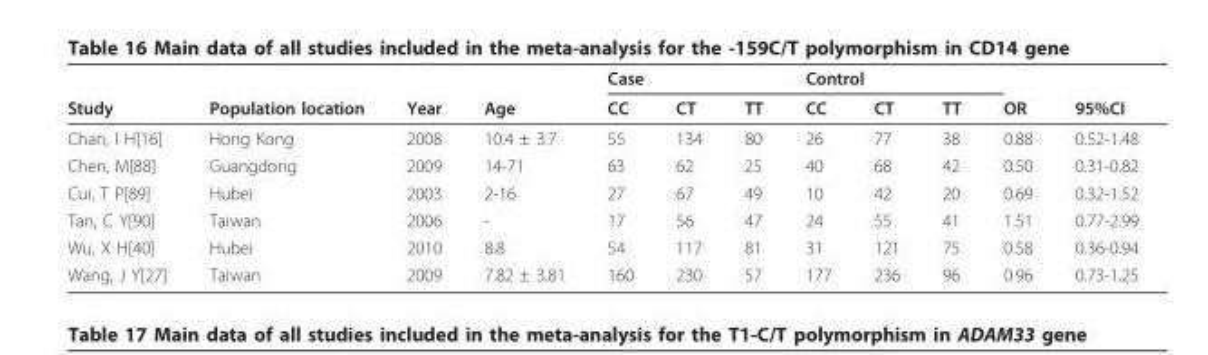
<table><thead><tr><td rowspan="2">Study</td><td rowspan="2">Population location</td><td rowspan="2">Year</td><td rowspan="2">Age</td><td colspan="3">Case</td><td colspan="3">Control</td><td rowspan="2">OR</td><td rowspan="2">95%CI</td></tr><tr><td>CC</td><td>CT</td><td>TT</td><td>CC</td><td>CT</td><td>TT</td></tr></thead><tbody><tr><td>Chan, I H[16]</td><td>Hong Kong</td><td>2008</td><td>10.4 ± 3.7</td><td>55</td><td>134</td><td>80</td><td>26</td><td>77</td><td>38</td><td>0.88</td><td>0.52-1.48</td></tr><tr><td>Chen, M[88]</td><td>Guangdong</td><td>2009</td><td>14-71</td><td>63</td><td>62</td><td>25</td><td>40</td><td>68</td><td>42</td><td>0.50</td><td>0.31-0.82</td></tr><tr><td>Cui, T P[89]</td><td>Hubei</td><td>2003</td><td>2-16</td><td>27</td><td>67</td><td>49</td><td>10</td><td>42</td><td>20</td><td>0.69</td><td>0.32-1.52</td></tr><tr><td>Tan, C Y[90]</td><td>Taiwan</td><td>2006</td><td>-</td><td>17</td><td>56</td><td>47</td><td>24</td><td>55</td><td>41</td><td>1.51</td><td>0.77-2.99</td></tr><tr><td>Wu, X H[40]</td><td>Hubei</td><td>2010</td><td>8.8</td><td>54</td><td>117</td><td>81</td><td>31</td><td>121</td><td>75</td><td>0.58</td><td>0.36-0.94</td></tr><tr><td>Wang, J Y[27]</td><td>Taiwan</td><td>2009</td><td>7.82 ± 3.81</td><td>160</td><td>230</td><td>57</td><td>177</td><td>236</td><td>96</td><td>0.96</td><td>0.73-1.25</td></tr></tbody></table>